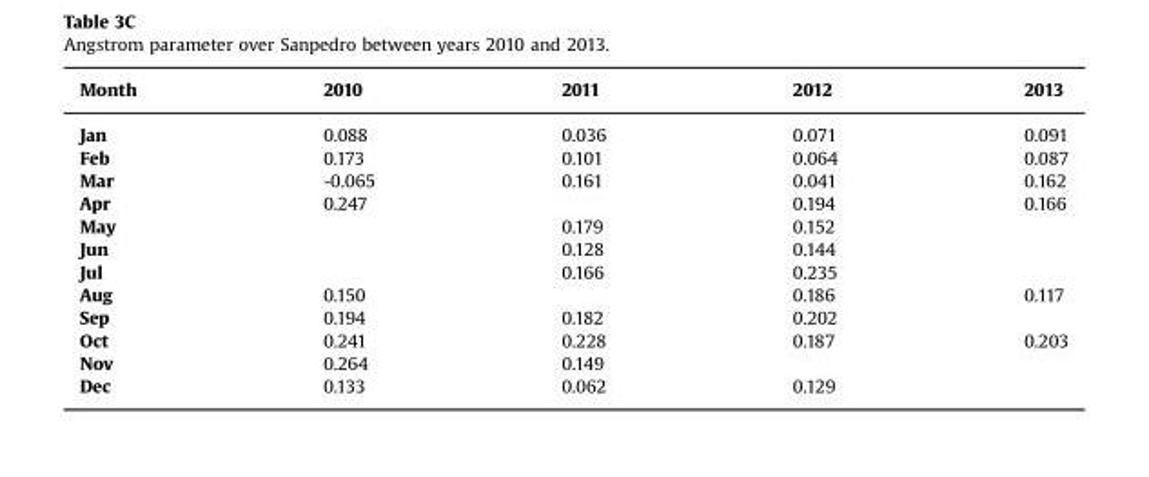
<table><thead><tr><td>Month</td><td>2010</td><td>2011</td><td>2012</td><td>2013</td></tr></thead><tbody><tr><td>Jan</td><td>0.088</td><td>0.036</td><td>0.071</td><td>0.091</td></tr><tr><td>Feb</td><td>0.173</td><td>0.101</td><td>0.064</td><td>0.087</td></tr><tr><td>Mar</td><td>-0.065</td><td>0.161</td><td>0.041</td><td>0.162</td></tr><tr><td>Apr</td><td>0.247</td><td></td><td>0.194</td><td>0.166</td></tr><tr><td>May</td><td></td><td>0.179</td><td>0.152</td><td></td></tr><tr><td>Jun</td><td></td><td>0.128</td><td>0.144</td><td></td></tr><tr><td>Jul</td><td></td><td>0.166</td><td>0.235</td><td></td></tr><tr><td>Aug</td><td>0.150</td><td></td><td>0.186</td><td>0.117</td></tr><tr><td>Sep</td><td>0.194</td><td>0.182</td><td>0.202</td><td></td></tr><tr><td>Oct</td><td>0.241</td><td>0.228</td><td>0.187</td><td>0.203</td></tr><tr><td>Nov</td><td>0.264</td><td>0.149</td><td></td><td></td></tr><tr><td>Dec</td><td>0.133</td><td>0.062</td><td>0.129</td><td></td></tr></tbody></table>